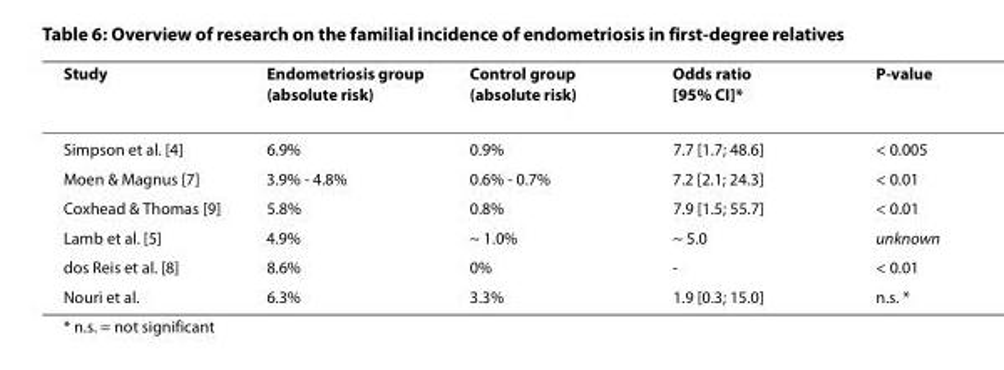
<table><thead><tr><td>Study</td><td>Endometriosis group (absolute risk)</td><td>Control group (absolute risk)</td><td>Odds ratio [95% CI]*</td><td>P-value</td></tr></thead><tbody><tr><td>Simpson et al. [4]</td><td>6.9%</td><td>0.9%</td><td>7.7 [1.7; 48.6]</td><td>&lt; 0.005</td></tr><tr><td>Moen &amp; Magnus [7]</td><td>3.9% - 4.8%</td><td>0.6% - 0.7%</td><td>7.2 [2.1; 24.3]</td><td>&lt; 0.01</td></tr><tr><td>Coxhead &amp; Thomas [9]</td><td>5.8%</td><td>0.8%</td><td>7.9 [1.5; 55.7]</td><td>&lt; 0.01</td></tr><tr><td>Lamb et al. [5]</td><td>4.9%</td><td>~ 1.0%</td><td>~ 5.0</td><td>unknown</td></tr><tr><td>dos Reis et al. [8]</td><td>8.6%</td><td>0%</td><td>-</td><td>&lt; 0.01</td></tr><tr><td>Nouri et al.</td><td>6.3%</td><td>3.3%</td><td>1.9 [0.3; 15.0]</td><td>n.s. *</td></tr></tbody></table>